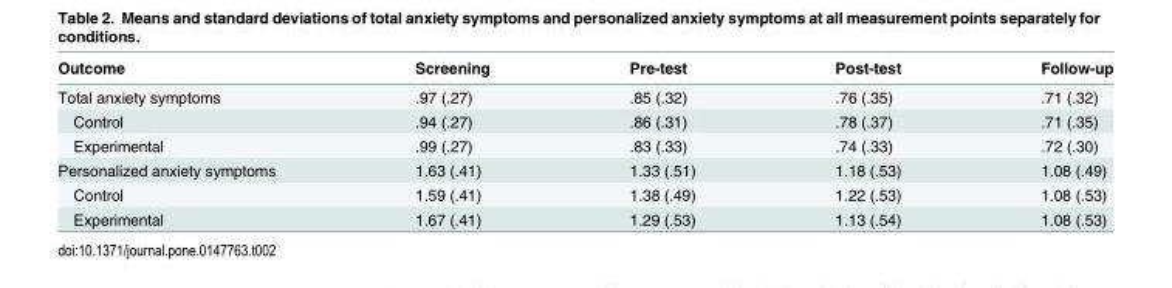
<table><thead><tr><td>Outcome</td><td>Screening</td><td>Pre-test</td><td>Post-test</td><td>Follow-up</td></tr></thead><tbody><tr><td>Total anxiety symptoms</td><td>.97 (.27)</td><td>.85 (.32)</td><td>.76 (.35)</td><td>.71 (.32)</td></tr><tr><td>Control</td><td>.94 (.27)</td><td>.86 (.31)</td><td>.78 (.37)</td><td>.71 (.35)</td></tr><tr><td>Experimental</td><td>.99 (.27)</td><td>.83 (.33)</td><td>.74 (.33)</td><td>.72 (.30)</td></tr><tr><td>Personalized anxiety symptoms</td><td>1.63 (.41)</td><td>1.33 (.51)</td><td>1.18 (.53)</td><td>1.08 (.49)</td></tr><tr><td>Control</td><td>1.59 (.41)</td><td>1.38 (.49)</td><td>1.22 (.53)</td><td>1.08 (.53)</td></tr><tr><td>Experimental</td><td>1.67 (.41)</td><td>1.29 (.53)</td><td>1.13 (.54)</td><td>1.08 (.53)</td></tr></tbody></table>